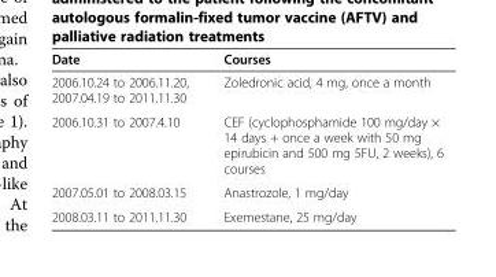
<table><thead><tr><td>Date</td><td>Courses</td></tr></thead><tbody><tr><td>2006.10.24 to 2006.11.20, 2007.04.19 to 2011.11.30</td><td>Zoledronic acid, 4 mg, once a month</td></tr><tr><td>2006.10.31 to 2007.4.10</td><td>CEF (cyclophosphamide 100 mg/day × 14 days + once a week with 50 mg epirubicin and 500 mg 5FU, 2 weeks), 6 courses</td></tr><tr><td>2007.05.01 to 2008.03.15</td><td>Anastrozole, 1 mg/day</td></tr><tr><td>2008.03.11 to 2011.11.30</td><td>Exemestane, 25 mg/day</td></tr></tbody></table>